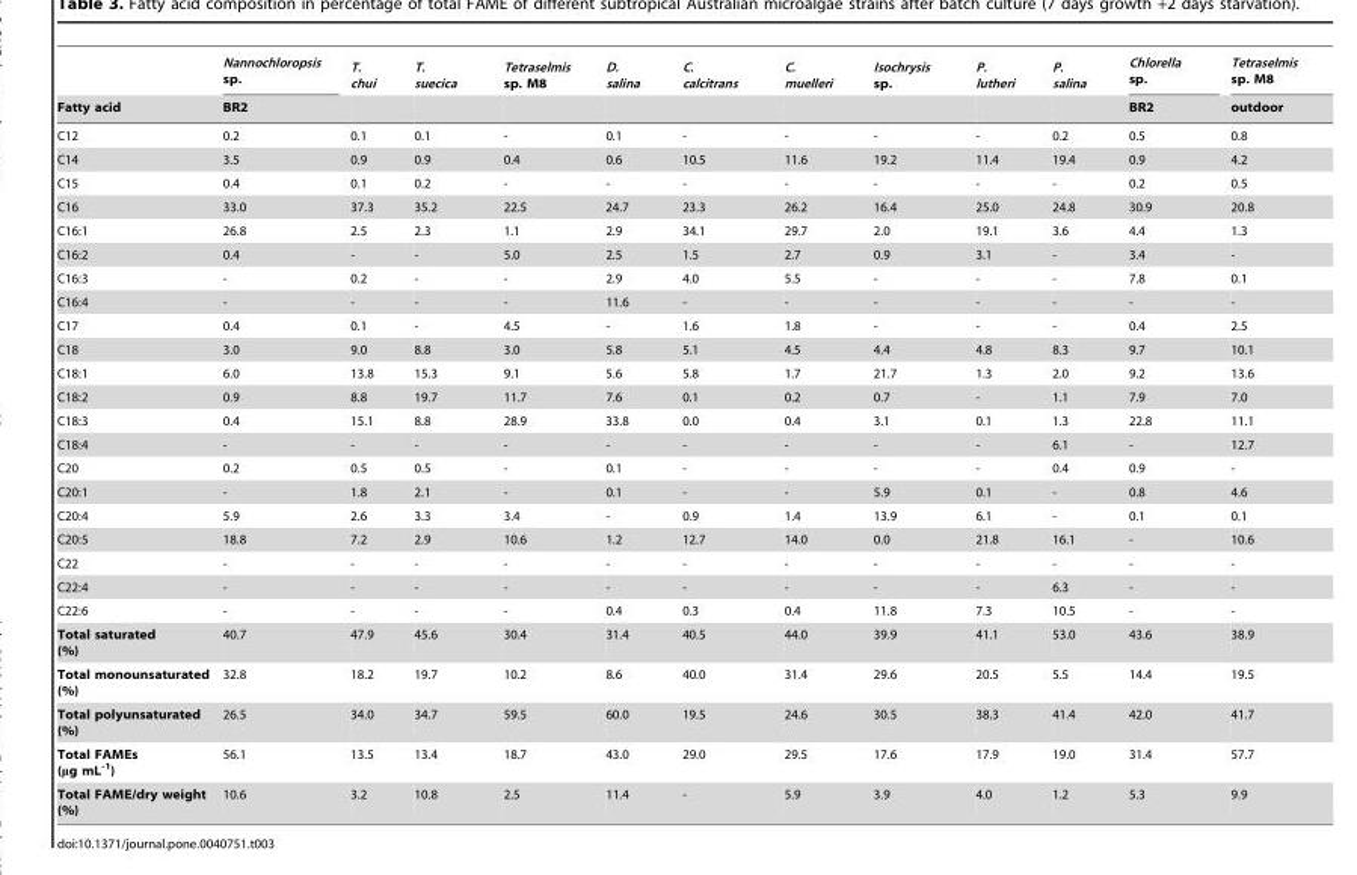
<table><thead><tr><td rowspan="2">Fatty acid</td><td rowspan="2">Nannochloropsis sp. BR2</td><td rowspan="2">T. chui</td><td rowspan="2">T. suecica</td><td rowspan="2">Tetraselmis sp. M8</td><td rowspan="2">D. salina</td><td rowspan="2">C. calcitrans</td><td rowspan="2">C. muelleri</td><td rowspan="2">Isochrysis sp.</td><td rowspan="2">P. lutheri</td><td rowspan="2">P. salina</td><td rowspan="2">Chlorella sp. BR2</td><td rowspan="2">Tetraselmis sp. M8 outdoor</td></tr><tr></tr></thead><tbody><tr><td>C12</td><td>0.2</td><td>0.1</td><td>0.1</td><td>-</td><td>0.1</td><td>-</td><td>-</td><td>-</td><td>-</td><td>0.2</td><td>0.5</td><td>0.8</td></tr><tr><td>C14</td><td>3.5</td><td>0.9</td><td>0.9</td><td>0.4</td><td>0.6</td><td>10.5</td><td>11.6</td><td>19.2</td><td>11.4</td><td>19.4</td><td>0.9</td><td>4.2</td></tr><tr><td>C15</td><td>0.4</td><td>0.1</td><td>0.2</td><td>-</td><td>-</td><td>-</td><td>-</td><td>-</td><td>-</td><td>-</td><td>0.2</td><td>0.5</td></tr><tr><td>C16</td><td>33.0</td><td>37.3</td><td>35.2</td><td>22.5</td><td>24.7</td><td>23.3</td><td>26.2</td><td>16.4</td><td>25.0</td><td>24.8</td><td>30.9</td><td>20.8</td></tr><tr><td>C16:1</td><td>26.8</td><td>2.5</td><td>2.3</td><td>1.1</td><td>2.9</td><td>34.1</td><td>29.7</td><td>2.0</td><td>19.1</td><td>3.6</td><td>4.4</td><td>1.3</td></tr><tr><td>C16:2</td><td>0.4</td><td>-</td><td>-</td><td>5.0</td><td>2.5</td><td>1.5</td><td>2.7</td><td>0.9</td><td>3.1</td><td>-</td><td>3.4</td><td>-</td></tr><tr><td>C16:3</td><td>-</td><td>0.2</td><td>-</td><td>-</td><td>2.9</td><td>4.0</td><td>5.5</td><td>-</td><td>-</td><td>-</td><td>7.8</td><td>0.1</td></tr><tr><td>C16:4</td><td>-</td><td>-</td><td>-</td><td>-</td><td>11.6</td><td>-</td><td>-</td><td>-</td><td>-</td><td>-</td><td>-</td><td>-</td></tr><tr><td>C17</td><td>0.4</td><td>0.1</td><td>-</td><td>4.5</td><td>-</td><td>1.6</td><td>1.8</td><td>-</td><td>-</td><td>-</td><td>0.4</td><td>2.5</td></tr><tr><td>C18</td><td>3.0</td><td>9.0</td><td>8.8</td><td>3.0</td><td>5.8</td><td>5.1</td><td>4.5</td><td>4.4</td><td>4.8</td><td>8.3</td><td>9.7</td><td>10.1</td></tr><tr><td>C18:1</td><td>6.0</td><td>13.8</td><td>15.3</td><td>9.1</td><td>5.6</td><td>5.8</td><td>1.7</td><td>21.7</td><td>1.3</td><td>2.0</td><td>9.2</td><td>13.6</td></tr><tr><td>C18:2</td><td>0.9</td><td>8.8</td><td>19.7</td><td>11.7</td><td>7.6</td><td>0.1</td><td>0.2</td><td>0.7</td><td>-</td><td>1.1</td><td>7.9</td><td>7.0</td></tr><tr><td>C18:3</td><td>0.4</td><td>15.1</td><td>8.8</td><td>28.9</td><td>33.8</td><td>0.0</td><td>0.4</td><td>3.1</td><td>0.1</td><td>1.3</td><td>22.8</td><td>11.1</td></tr><tr><td>C18:4</td><td>-</td><td>-</td><td>-</td><td>-</td><td>-</td><td>-</td><td>-</td><td>-</td><td>-</td><td>6.1</td><td>-</td><td>12.7</td></tr><tr><td>C20</td><td>0.2</td><td>0.5</td><td>0.5</td><td>-</td><td>0.1</td><td>-</td><td>-</td><td>-</td><td>-</td><td>0.4</td><td>0.9</td><td>-</td></tr><tr><td>C20:1</td><td>-</td><td>1.8</td><td>2.1</td><td>-</td><td>0.1</td><td>-</td><td>-</td><td>5.9</td><td>0.1</td><td>-</td><td>0.8</td><td>4.6</td></tr><tr><td>C20:4</td><td>5.9</td><td>2.6</td><td>3.3</td><td>3.4</td><td>-</td><td>0.9</td><td>1.4</td><td>13.9</td><td>6.1</td><td>-</td><td>0.1</td><td>0.1</td></tr><tr><td>C20:5</td><td>18.8</td><td>7.2</td><td>2.9</td><td>10.6</td><td>1.2</td><td>12.7</td><td>14.0</td><td>0.0</td><td>21.8</td><td>16.1</td><td>-</td><td>10.6</td></tr><tr><td>C22</td><td>-</td><td>-</td><td>-</td><td>-</td><td>-</td><td>-</td><td>-</td><td>-</td><td>-</td><td>-</td><td>-</td><td>-</td></tr><tr><td>C22:4</td><td>-</td><td>-</td><td>-</td><td>-</td><td>-</td><td>-</td><td>-</td><td>-</td><td>-</td><td>6.3</td><td>-</td><td>-</td></tr><tr><td>C22:6</td><td>-</td><td>-</td><td>-</td><td>-</td><td>0.4</td><td>0.3</td><td>0.4</td><td>11.8</td><td>7.3</td><td>10.5</td><td>-</td><td>-</td></tr><tr><td>Total saturated (%)</td><td>40.7</td><td>47.9</td><td>45.6</td><td>30.4</td><td>31.4</td><td>40.5</td><td>44.0</td><td>39.9</td><td>41.1</td><td>53.0</td><td>43.6</td><td>38.9</td></tr><tr><td>Total monounsaturated (%)</td><td>32.8</td><td>18.2</td><td>19.7</td><td>10.2</td><td>8.6</td><td>40.0</td><td>31.4</td><td>29.6</td><td>20.5</td><td>5.5</td><td>14.4</td><td>19.5</td></tr><tr><td>Total polyunsaturated (%)</td><td>26.5</td><td>34.0</td><td>34.7</td><td>59.5</td><td>60.0</td><td>19.5</td><td>24.6</td><td>30.5</td><td>38.3</td><td>41.4</td><td>42.0</td><td>41.7</td></tr><tr><td>Total FAMEs (μg mL<sup>-1</sup>)</td><td>56.1</td><td>13.5</td><td>13.4</td><td>18.7</td><td>43.0</td><td>29.0</td><td>29.5</td><td>17.6</td><td>17.9</td><td>19.0</td><td>31.4</td><td>57.7</td></tr><tr><td>Total FAME/dry weight (%)</td><td>10.6</td><td>3.2</td><td>10.8</td><td>2.5</td><td>11.4</td><td>-</td><td>5.9</td><td>3.9</td><td>4.0</td><td>1.2</td><td>5.3</td><td>9.9</td></tr></tbody></table>